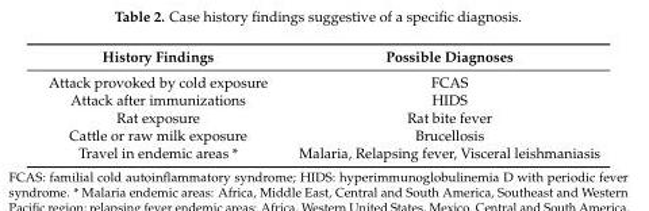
<table><thead><tr><td>History Findings</td><td>Possible Diagnoses</td></tr></thead><tbody><tr><td>Attack provoked by cold exposure</td><td>FCAS</td></tr><tr><td>Attack after immunizations</td><td>HIDS</td></tr><tr><td>Rat exposure</td><td>Rat bite fever</td></tr><tr><td>Cattle or raw milk exposure</td><td>Brucellosis</td></tr><tr><td>Travel in endemic areas *</td><td>Malaria, Relapsing fever, Visceral leishmaniasis</td></tr></tbody></table>